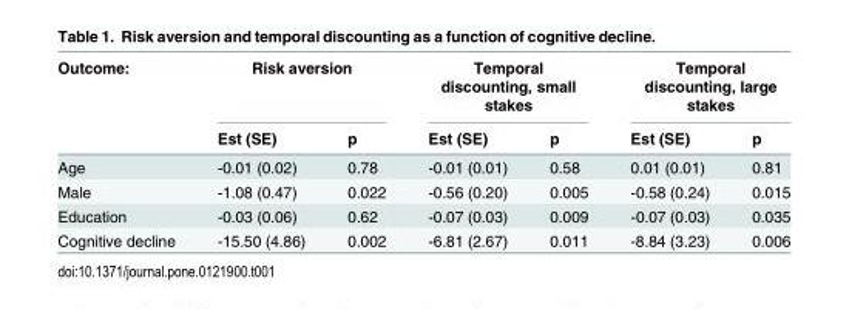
<table><thead><tr><td rowspan="2">Outcome:</td><td colspan="2">Risk aversion</td><td colspan="2">Temporal discounting, small stakes</td><td colspan="2">Temporal discounting, large stakes</td></tr><tr><td>Est (SE)</td><td>p</td><td>Est (SE)</td><td>p</td><td>Est (SE)</td><td>p</td></tr></thead><tbody><tr><td>Age</td><td>-0.01 (0.02)</td><td>0.78</td><td>-0.01 (0.01)</td><td>0.58</td><td>0.01 (0.01)</td><td>0.81</td></tr><tr><td>Male</td><td>-1.08 (0.47)</td><td>0.022</td><td>-0.56 (0.20)</td><td>0.005</td><td>-0.58 (0.24)</td><td>0.015</td></tr><tr><td>Education</td><td>-0.03 (0.06)</td><td>0.62</td><td>-0.07 (0.03)</td><td>0.009</td><td>-0.07 (0.03)</td><td>0.035</td></tr><tr><td>Cognitive decline</td><td>-15.50 (4.86)</td><td>0.002</td><td>-6.81 (2.67)</td><td>0.011</td><td>-8.84 (3.23)</td><td>0.006</td></tr></tbody></table>